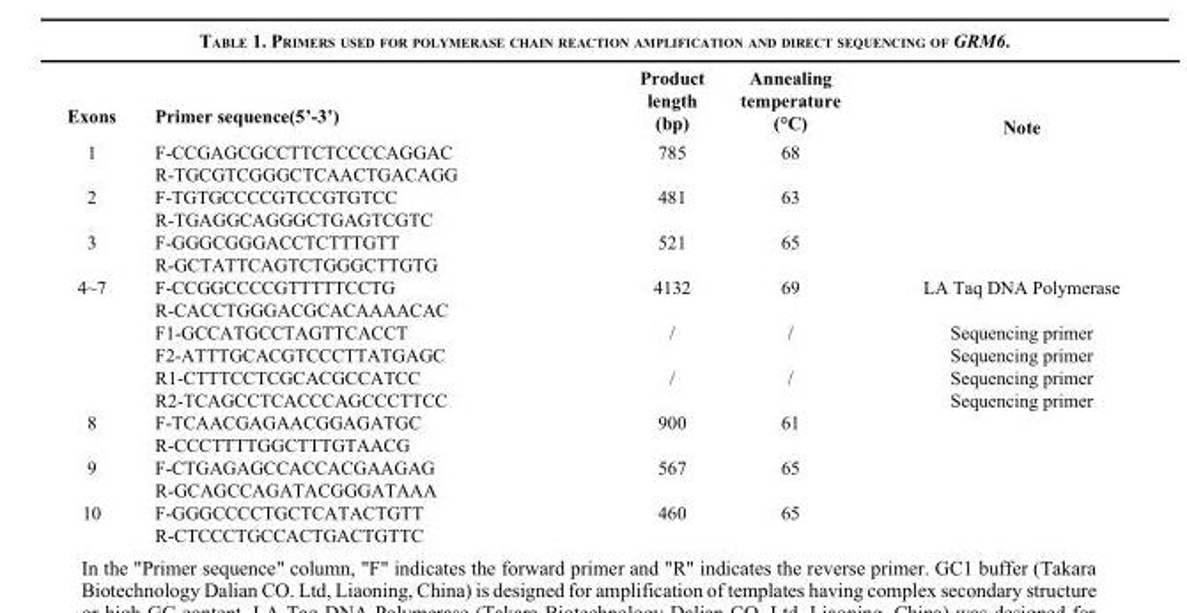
<table><thead><tr><td>Exons</td><td>Primer sequence(5’-3’)</td><td>Product length (bp)</td><td>Annealing temperature (°C)</td><td>Note</td></tr></thead><tbody><tr><td rowspan="2">1</td><td>F-CCGAGCGCCTTCTCCCCAGGAC</td><td>785</td><td>68</td><td></td></tr><tr><td>R-TGCGTCGGGCTCAACTGACAGG</td><td></td><td></td><td></td></tr><tr><td rowspan="2">2</td><td>F-TGTGCCCCGTCCGTGTCC</td><td>481</td><td>63</td><td></td></tr><tr><td>R-TGAGGCAGGGCTGAGTCGTC</td><td></td><td></td><td></td></tr><tr><td rowspan="2">3</td><td>F-GGGCGGGACCTCTTTGTT</td><td>521</td><td>65</td><td></td></tr><tr><td>R-GCTATTCAGTCTGGGCTTGTG</td><td></td><td></td><td></td></tr><tr><td rowspan="6">4~7</td><td>F-CCGGCCCCGTTTTTCCTG</td><td>4132</td><td>69</td><td>LA Taq DNA Polymerase</td></tr><tr><td>R-CACCTGGGACGCACAAAACAC</td><td></td><td></td><td></td></tr><tr><td>F1-GCCATGCCTAGTTCACCT</td><td>/</td><td>/</td><td>Sequencing primer</td></tr><tr><td>F2-ATTTGCACGTCCCTTATGAGC</td><td></td><td></td><td>Sequencing primer</td></tr><tr><td>R1-CTTTCCTCGCACGCCATCC</td><td>/</td><td>/</td><td>Sequencing primer</td></tr><tr><td>R2-TCAGCCTCACCCAGCCCTTCC</td><td></td><td></td><td>Sequencing primer</td></tr><tr><td rowspan="2">8</td><td>F-TCAACGAGAACGGAGATGC</td><td>900</td><td>61</td><td></td></tr><tr><td>R-CCCTTTTGGCTTTGTAACG</td><td></td><td></td><td></td></tr><tr><td rowspan="2">9</td><td>F-CTGAGAGCCACCACGAAGAG</td><td>567</td><td>65</td><td></td></tr><tr><td>R-GCAGCCAGATACGGGATAAA</td><td></td><td></td><td></td></tr><tr><td rowspan="2">10</td><td>F-GGGCCCCTGCTCATACTGTT</td><td>460</td><td>65</td><td></td></tr><tr><td>R-CTCCCTGCCACTGACTGTTC</td><td></td><td></td><td></td></tr></tbody></table>